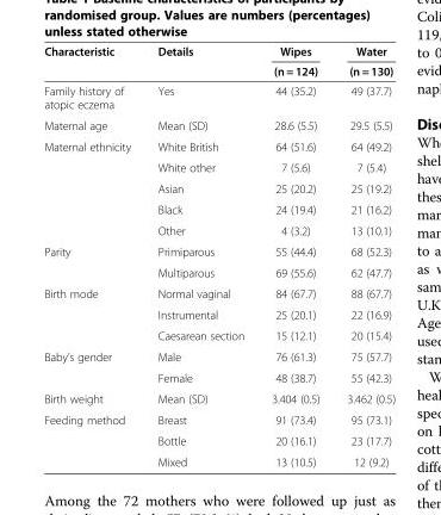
<table><thead><tr><td rowspan="2">Characteristic</td><td rowspan="2">Details</td><td rowspan="2">Wipes (n = 124)</td><td rowspan="2">Water (n = 130)</td></tr><tr></tr></thead><tbody><tr><td>Family history of atopic eczema</td><td>Yes</td><td>44 (35.2)</td><td>49 (37.7)</td></tr><tr><td>Maternal age</td><td>Mean (SD)</td><td>28.6 (5.5)</td><td>29.5 (5.5)</td></tr><tr><td rowspan="5">Maternal ethnicity</td><td>White British</td><td>64 (51.6)</td><td>64 (49.2)</td></tr><tr><td>White other</td><td>7 (5.6)</td><td>7 (5.4)</td></tr><tr><td>Asian</td><td>25 (20.2)</td><td>25 (19.2)</td></tr><tr><td>Black</td><td>24 (19.4)</td><td>21 (16.2)</td></tr><tr><td>Other</td><td>4 (3.2)</td><td>13 (10.1)</td></tr><tr><td rowspan="2">Parity</td><td>Primiparous</td><td>55 (44.4)</td><td>68 (52.3)</td></tr><tr><td>Multiparous</td><td>69 (55.6)</td><td>62 (47.7)</td></tr><tr><td rowspan="3">Birth mode</td><td>Normal vaginal</td><td>84 (67.7)</td><td>88 (67.7)</td></tr><tr><td>Instrumental</td><td>25 (20.1)</td><td>22 (16.9)</td></tr><tr><td>Caesarean section</td><td>15 (12.1)</td><td>20 (15.4)</td></tr><tr><td rowspan="2">Baby’s gender</td><td>Male</td><td>76 (61.3)</td><td>75 (57.7)</td></tr><tr><td>Female</td><td>48 (38.7)</td><td>55 (42.3)</td></tr><tr><td>Birth weight</td><td>Mean (SD)</td><td>3.404 (0.5)</td><td>3.462 (0.5)</td></tr><tr><td rowspan="3">Feeding method</td><td>Breast</td><td>91 (73.4)</td><td>95 (73.1)</td></tr><tr><td>Bottle</td><td>20 (16.1)</td><td>23 (17.7)</td></tr><tr><td>Mixed</td><td>13 (10.5)</td><td>12 (9.2)</td></tr></tbody></table>